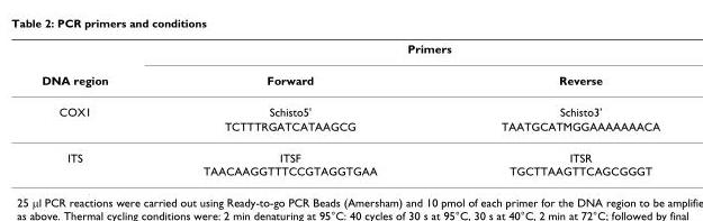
<table><thead><tr><td rowspan="2">DNA region</td><td colspan="2">Primers</td></tr><tr><td>Forward</td><td>Reverse</td></tr></thead><tbody><tr><td rowspan="2">COX1</td><td>Schisto5&#x27;</td><td>Schisto3&#x27;</td></tr><tr><td>TCTTTRGATCATAAGCG</td><td>TAATGCATMGGAAAAAAACA</td></tr><tr><td>ITS</td><td>ITSF TAACAAGGTTTCCGTAGGTGAA</td><td>ITSR TGCTTAAGTTCAGCGGGT</td></tr></tbody></table>